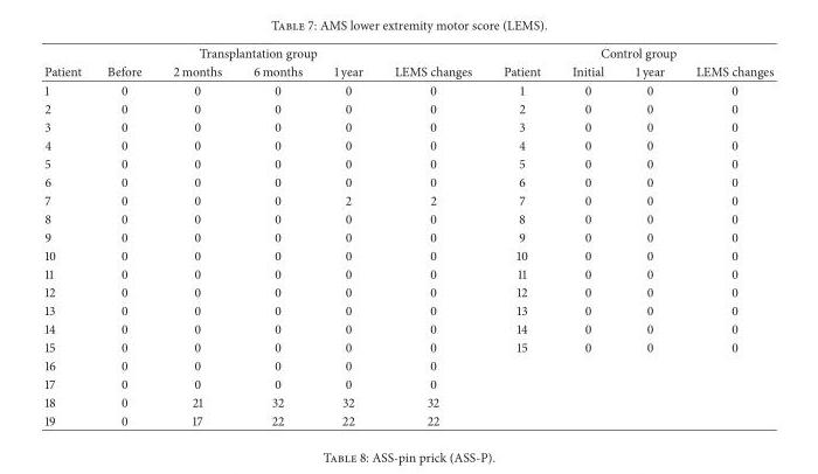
<table><thead><tr><td colspan="6">Transplantation group</td><td colspan="4">Control group</td></tr><tr><td>Patient</td><td>Before</td><td>2 months</td><td>6 months</td><td>1 year</td><td>LEMS changes</td><td>Patient</td><td>Initial</td><td>1 year</td><td>LEMS changes</td></tr></thead><tbody><tr><td>1</td><td>0</td><td>0</td><td>0</td><td>0</td><td>0</td><td>1</td><td>0</td><td>0</td><td>0</td></tr><tr><td>2</td><td>0</td><td>0</td><td>0</td><td>0</td><td>0</td><td>2</td><td>0</td><td>0</td><td>0</td></tr><tr><td>3</td><td>0</td><td>0</td><td>0</td><td>0</td><td>0</td><td>3</td><td>0</td><td>0</td><td>0</td></tr><tr><td>4</td><td>0</td><td>0</td><td>0</td><td>0</td><td>0</td><td>4</td><td>0</td><td>0</td><td>0</td></tr><tr><td>5</td><td>0</td><td>0</td><td>0</td><td>0</td><td>0</td><td>5</td><td>0</td><td>0</td><td>0</td></tr><tr><td>6</td><td>0</td><td>0</td><td>0</td><td>0</td><td>0</td><td>6</td><td>0</td><td>0</td><td>0</td></tr><tr><td>7</td><td>0</td><td>0</td><td>0</td><td>2</td><td>2</td><td>7</td><td>0</td><td>0</td><td>0</td></tr><tr><td>8</td><td>0</td><td>0</td><td>0</td><td>0</td><td>0</td><td>8</td><td>0</td><td>0</td><td>0</td></tr><tr><td>9</td><td>0</td><td>0</td><td>0</td><td>0</td><td>0</td><td>9</td><td>0</td><td>0</td><td>0</td></tr><tr><td>10</td><td>0</td><td>0</td><td>0</td><td>0</td><td>0</td><td>10</td><td>0</td><td>0</td><td>0</td></tr><tr><td>11</td><td>0</td><td>0</td><td>0</td><td>0</td><td>0</td><td>11</td><td>0</td><td>0</td><td>0</td></tr><tr><td>12</td><td>0</td><td>0</td><td>0</td><td>0</td><td>0</td><td>12</td><td>0</td><td>0</td><td>0</td></tr><tr><td>13</td><td>0</td><td>0</td><td>0</td><td>0</td><td>0</td><td>13</td><td>0</td><td>0</td><td>0</td></tr><tr><td>14</td><td>0</td><td>0</td><td>0</td><td>0</td><td>0</td><td>14</td><td>0</td><td>0</td><td>0</td></tr><tr><td>15</td><td>0</td><td>0</td><td>0</td><td>0</td><td>0</td><td>15</td><td>0</td><td>0</td><td>0</td></tr><tr><td>16</td><td>0</td><td>0</td><td>0</td><td>0</td><td>0</td><td></td><td></td><td></td><td></td></tr><tr><td>17</td><td>0</td><td>0</td><td>0</td><td>0</td><td>0</td><td></td><td></td><td></td><td></td></tr><tr><td>18</td><td>0</td><td>21</td><td>32</td><td>32</td><td>32</td><td></td><td></td><td></td><td></td></tr><tr><td>19</td><td>0</td><td>17</td><td>22</td><td>22</td><td>22</td><td></td><td></td><td></td><td></td></tr></tbody></table>